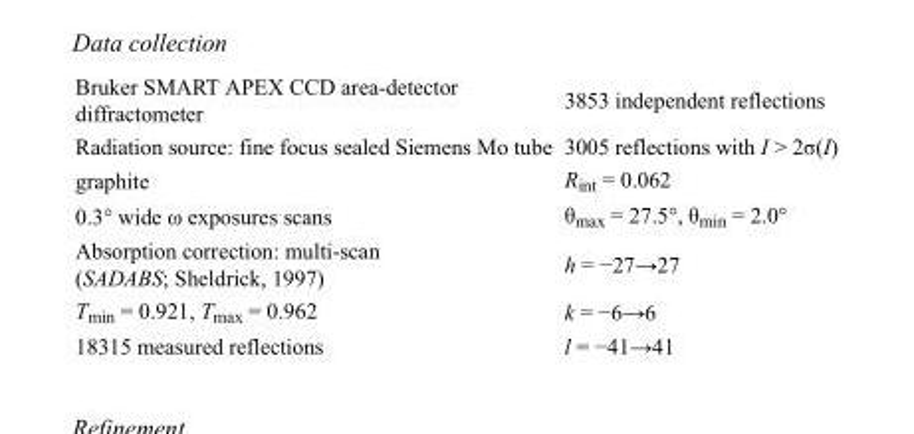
<table><tbody><tr><td>Bruker SMART APEX CCD area-detector diffractometer</td><td>3853 independent reflections</td></tr><tr><td>Radiation source: fine focus sealed Siemens Mo tube</td><td>3005 reflections with I &gt; 2σ(I)</td></tr><tr><td>graphite</td><td>R<sub>int</sub> = 0.062</td></tr><tr><td>0.3° wide ω exposures scans</td><td>θ<sub>max</sub> = 27.5°, θ<sub>min</sub> = 2.0°</td></tr><tr><td>Absorption correction: multi-scan (SADABS; Sheldrick, 1997)</td><td>h = −27→27</td></tr><tr><td>T<sub>min</sub> = 0.921, T<sub>max</sub> = 0.962</td><td>k = −6→6</td></tr><tr><td>18315 measured reflections</td><td>l = −41→41</td></tr></tbody></table>